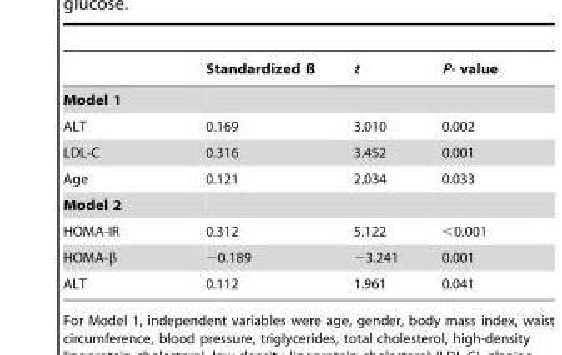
<table><thead><tr><td></td><td>Standardized ß</td><td>t</td><td>P- value</td></tr></thead><tbody><tr><td colspan="4">Model 1</td></tr><tr><td>ALT</td><td>0.169</td><td>3.010</td><td>0.002</td></tr><tr><td>LDL-C</td><td>0.316</td><td>3.452</td><td>0.001</td></tr><tr><td>Age</td><td>0.121</td><td>2.034</td><td>0.033</td></tr><tr><td colspan="4">Model 2</td></tr><tr><td>HOMA-IR</td><td>0.312</td><td>5.122</td><td>&lt;0.001</td></tr><tr><td>HOMA-β</td><td>−0.189</td><td>−3.241</td><td>0.001</td></tr><tr><td>ALT</td><td>0.112</td><td>1.961</td><td>0.041</td></tr></tbody></table>